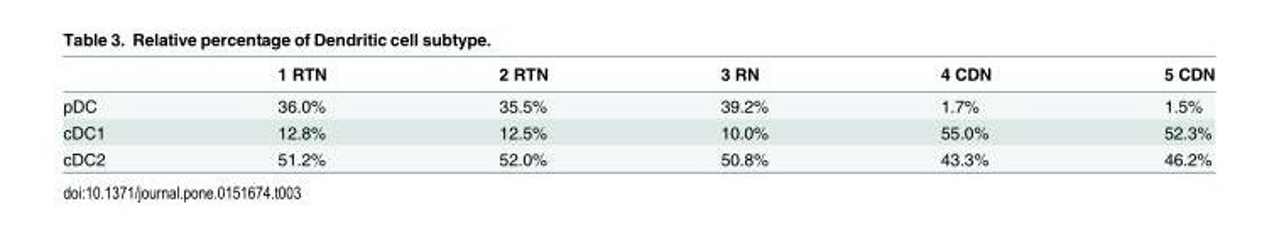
<table><thead><tr><td></td><td>1 RTN</td><td>2 RTN</td><td>3 RN</td><td>4 CDN</td><td>5 CDN</td></tr></thead><tbody><tr><td>pDC</td><td>36.0%</td><td>35.5%</td><td>39.2%</td><td>1.7%</td><td>1.5%</td></tr><tr><td>cDC1</td><td>12.8%</td><td>12.5%</td><td>10.0%</td><td>55.0%</td><td>52.3%</td></tr><tr><td>cDC2</td><td>51.2%</td><td>52.0%</td><td>50.8%</td><td>43.3%</td><td>46.2%</td></tr></tbody></table>